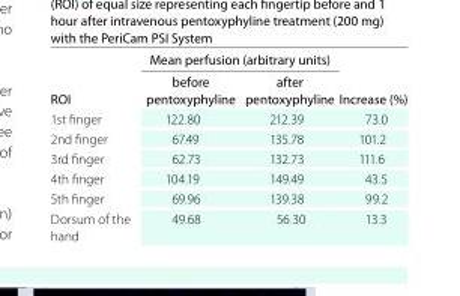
<table><thead><tr><td rowspan="2">ROi</td><td colspan="2">Mean perfusion (arbitrary units)</td><td rowspan="2">increase (%)</td></tr><tr><td>before pentoxyphyline</td><td>after pentoxyphyline</td></tr></thead><tbody><tr><td>1st finger</td><td>122.80</td><td>212.39</td><td>73.0</td></tr><tr><td>2nd finger</td><td>67.49</td><td>135.78</td><td>101.2</td></tr><tr><td>3rd finger</td><td>62.73</td><td>132.73</td><td>111.6</td></tr><tr><td>4th finger</td><td>104.19</td><td>149.49</td><td>43.5</td></tr><tr><td>5th finger</td><td>69.96</td><td>139.38</td><td>99.2</td></tr><tr><td>Dorsum of the hand</td><td>49.68</td><td>56.30</td><td>13.3</td></tr></tbody></table>